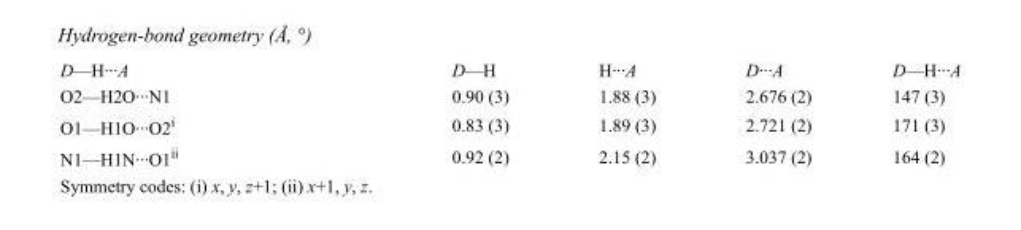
<table><tbody><tr><td>D—H···A</td><td>D—H</td><td>H···A</td><td>D···A</td><td>D—H···A</td></tr><tr><td>O2—H2O···N1</td><td>0.90 (3)</td><td>1.88 (3)</td><td>2.676 (2)</td><td>147 (3)</td></tr><tr><td>O1—H1O···O2<sup>i</sup></td><td>0.83 (3)</td><td>1.89 (3)</td><td>2.721 (2)</td><td>171 (3)</td></tr><tr><td>N1—H1N···O1<sup>ii</sup></td><td>0.92 (2)</td><td>2.15 (2)</td><td>3.037 (2)</td><td>164 (2)</td></tr></tbody></table>